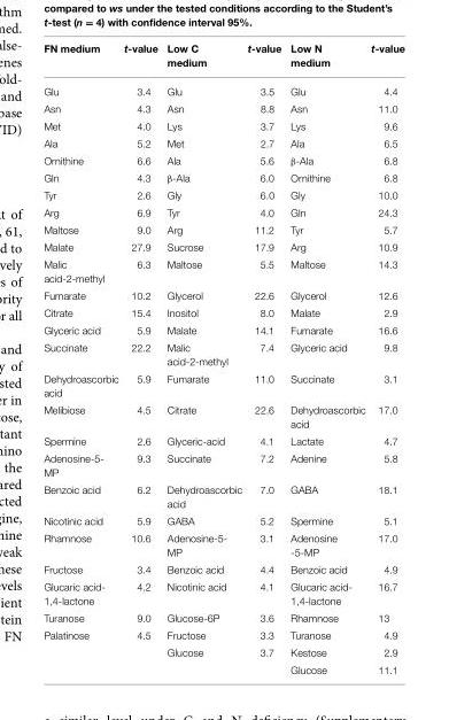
<table><thead><tr><td>FN medium</td><td>t-value</td><td>Low C medium</td><td>t-value</td><td>Low N medium</td><td>t-value</td></tr></thead><tbody><tr><td>Glu</td><td>3.4</td><td>Glu</td><td>3.5</td><td>Glu</td><td>4.4</td></tr><tr><td>Asn</td><td>4.3</td><td>Asn</td><td>8.8</td><td>Asn</td><td>11.0</td></tr><tr><td>Met</td><td>4.0</td><td>Lys</td><td>3.7</td><td>Lys</td><td>9.6</td></tr><tr><td>Ala</td><td>5.2</td><td>Met</td><td>2.7</td><td>Ala</td><td>6.5</td></tr><tr><td>Ornithine</td><td>6.6</td><td>Ala</td><td>5.6</td><td>β-Ala</td><td>6.8</td></tr><tr><td>Gln</td><td>4.3</td><td>β-Ala</td><td>6.0</td><td>Ornithine</td><td>6.8</td></tr><tr><td>Tyr</td><td>2.6</td><td>Gly</td><td>6.0</td><td>Gly</td><td>10.0</td></tr><tr><td>Arg</td><td>6.9</td><td>Tyr</td><td>4.0</td><td>Gln</td><td>24.3</td></tr><tr><td>Maltose</td><td>9.0</td><td>Arg</td><td>11.2</td><td>Tyr</td><td>5.7</td></tr><tr><td>Malate</td><td>27.9</td><td>Sucrose</td><td>17.9</td><td>Arg</td><td>10.9</td></tr><tr><td>Malic acid-2-methyl</td><td>6.3</td><td>Maltose</td><td>5.5</td><td>Maltose</td><td>14.3</td></tr><tr><td>Fumarate</td><td>10.2</td><td>Glycerol</td><td>22.6</td><td>Glycerol</td><td>12.6</td></tr><tr><td>Citrate</td><td>15.4</td><td>Inositol</td><td>8.0</td><td>Malate</td><td>2.9</td></tr><tr><td>Glyceric acid</td><td>5.9</td><td>Malate</td><td>14.1</td><td>Fumarate</td><td>16.6</td></tr><tr><td>Succinate</td><td>22.2</td><td>Malic acid-2-methyl</td><td>7.4</td><td>Glyceric acid</td><td>9.8</td></tr><tr><td>Dehydroascorbic acid</td><td>5.9</td><td>Fumarate</td><td>11.0</td><td>Succinate</td><td>3.1</td></tr><tr><td>Melibiose</td><td>4.5</td><td>Citrate</td><td>22.6</td><td>Dehydroascorbic acid</td><td>17.0</td></tr><tr><td>Spermine</td><td>2.6</td><td>Glyceric-acid</td><td>4.1</td><td>Lactate</td><td>4.7</td></tr><tr><td>Adenosine-5- MP</td><td>9.3</td><td>Succinate</td><td>7.2</td><td>Adenine</td><td>5.8</td></tr><tr><td>Benzoic acid</td><td>6.2</td><td>Dehydroascorbic acid</td><td>7.0</td><td>GABA</td><td>18.1</td></tr><tr><td>Nicotinic acid</td><td>5.9</td><td>GABA</td><td>5.2</td><td>Spermine</td><td>5.1</td></tr><tr><td>Rhamnose</td><td>10.6</td><td>Adenosine-5- MP</td><td>3.1</td><td>Adenosine -5-MP</td><td>17.0</td></tr><tr><td>Fructose</td><td>3.4</td><td>Benzoic acid</td><td>4.4</td><td>Benzoic acid</td><td>4.9</td></tr><tr><td>Glucaric acid- 1,4-lactone</td><td>4.2</td><td>Nicotinic acid</td><td>4.1</td><td>Glucaric acid- 1,4-lactone</td><td>16.7</td></tr><tr><td>Turanose</td><td>9.0</td><td>Glucose-6P</td><td>3.6</td><td>Rhamnose</td><td>13</td></tr><tr><td rowspan="3">Palatinose</td><td>4.5</td><td>Fructose</td><td>3.3</td><td>Turanose</td><td>4.9</td></tr><tr><td></td><td>Glucose</td><td>3.7</td><td>Kestose</td><td>2.9</td></tr><tr><td></td><td></td><td></td><td>Glucose</td><td>11.1</td></tr></tbody></table>